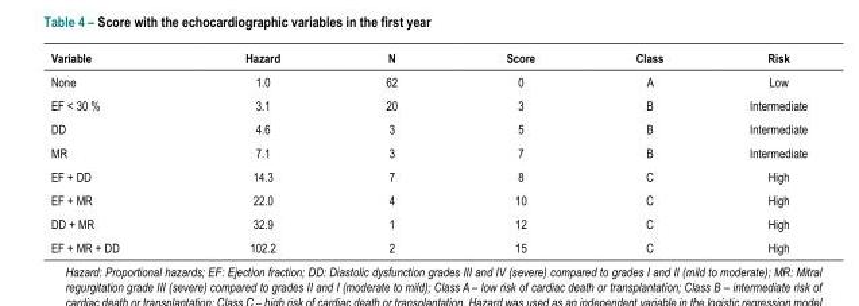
<table><thead><tr><td>Variable</td><td>Hazard</td><td>N</td><td>Score</td><td>Class</td><td>Risk</td></tr></thead><tbody><tr><td>None</td><td>1.0</td><td>62</td><td>0</td><td>A</td><td>Low</td></tr><tr><td>EF &lt; 30 %</td><td>3.1</td><td>20</td><td>3</td><td>B</td><td>Intermediate</td></tr><tr><td>DD</td><td>4.6</td><td>3</td><td>5</td><td>B</td><td>Intermediate</td></tr><tr><td>MR</td><td>7.1</td><td>3</td><td>7</td><td>B</td><td>Intermediate</td></tr><tr><td>EF + DD</td><td>14.3</td><td>7</td><td>8</td><td>C</td><td>High</td></tr><tr><td>EF + MR</td><td>22.0</td><td>4</td><td>10</td><td>C</td><td>High</td></tr><tr><td>DD + MR</td><td>32.9</td><td>1</td><td>12</td><td>C</td><td>High</td></tr><tr><td>EF + MR + DD</td><td>102.2</td><td>2</td><td>15</td><td>C</td><td>High</td></tr></tbody></table>